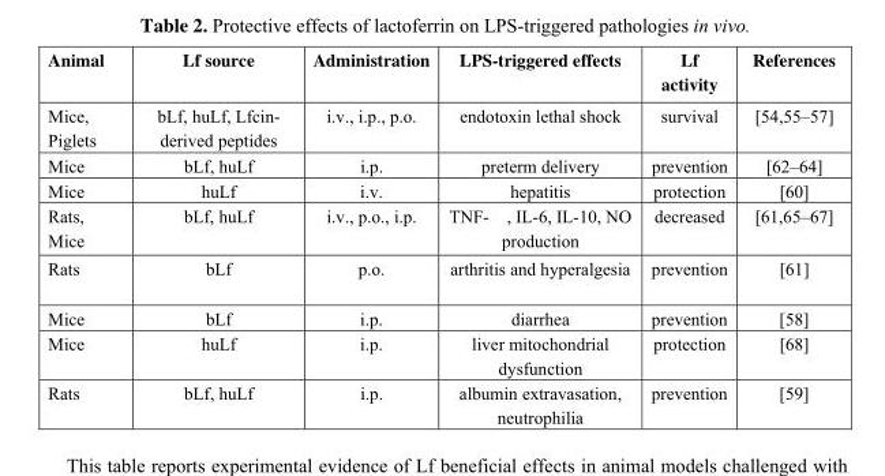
<table><thead><tr><td>Animal</td><td>Lf source</td><td>Administration</td><td>LPS-triggered effects</td><td>Lf activity</td><td>References</td></tr></thead><tbody><tr><td>Mice, Piglets</td><td>bLf, huLf, Lfcin- derived peptides</td><td>i.v., i.p., p.o.</td><td>endotoxin lethal shock</td><td>survival</td><td>[54,55–57]</td></tr><tr><td>Mice</td><td>bLf, huLf</td><td>i.p.</td><td>preterm delivery</td><td>prevention</td><td>[62–64]</td></tr><tr><td>Mice</td><td>huLf</td><td>i.v.</td><td>hepatitis</td><td>protection</td><td>[60]</td></tr><tr><td>Rats, Mice</td><td>bLf, huLf</td><td>i.v., p.o., i.p.</td><td>TNF- , IL-6, IL-10, NO production</td><td>decreased</td><td>[61,65–67]</td></tr><tr><td>Rats</td><td>bLf</td><td>p.o.</td><td>arthritis and hyperalgesia</td><td>prevention</td><td>[61]</td></tr><tr><td>Mice</td><td>bLf</td><td>i.p.</td><td>diarrhea</td><td>prevention</td><td>[58]</td></tr><tr><td>Mice</td><td>huLf</td><td>i.p.</td><td>liver mitochondrial dysfunction</td><td>protection</td><td>[68]</td></tr><tr><td>Rats</td><td>bLf, huLf</td><td>i.p.</td><td>albumin extravasation, neutrophilia</td><td>prevention</td><td>[59]</td></tr></tbody></table>